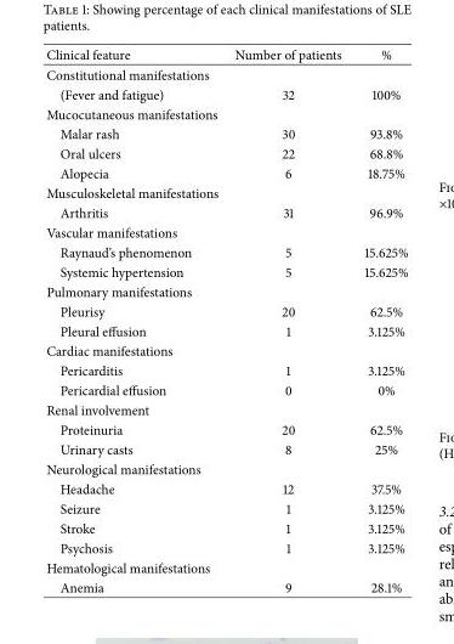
<table><thead><tr><td>Clinical feature</td><td>Number of patients</td><td>%</td></tr></thead><tbody><tr><td colspan="3">Constitutional manifestations</td></tr><tr><td>(Fever and fatigue)</td><td>32</td><td>100%</td></tr><tr><td colspan="3">Mucocutaneous manifestations</td></tr><tr><td>Malar rash</td><td>30</td><td>93.8%</td></tr><tr><td>Oral ulcers</td><td>22</td><td>68.8%</td></tr><tr><td>Alopecia</td><td>6</td><td>18.75%</td></tr><tr><td colspan="3">Musculoskeletal manifestations</td></tr><tr><td>Arthritis</td><td>31</td><td>96.9%</td></tr><tr><td colspan="3">Vascular manifestations</td></tr><tr><td>Raynaud’s phenomenon</td><td>5</td><td>15.625%</td></tr><tr><td>Systemic hypertension</td><td>5</td><td>15.625%</td></tr><tr><td colspan="3">Pulmonary manifestations</td></tr><tr><td>Pleurisy</td><td>20</td><td>62.5%</td></tr><tr><td>Pleural effusion</td><td>1</td><td>3.125%</td></tr><tr><td colspan="3">Cardiac manifestations</td></tr><tr><td>Pericarditis</td><td>1</td><td>3.125%</td></tr><tr><td>Pericardial effusion</td><td>0</td><td>0%</td></tr><tr><td colspan="3">Renal involvement</td></tr><tr><td>Proteinuria</td><td>20</td><td>62.5%</td></tr><tr><td>Urinary casts</td><td>8</td><td>25%</td></tr><tr><td colspan="3">Neurological manifestations</td></tr><tr><td>Headache</td><td>12</td><td>37.5%</td></tr><tr><td>Seizure</td><td>1</td><td>3.125%</td></tr><tr><td>Stroke</td><td>1</td><td>3.125%</td></tr><tr><td>Psychosis</td><td>1</td><td>3.125%</td></tr><tr><td colspan="3">Hematological manifestations</td></tr><tr><td>Anemia</td><td>9</td><td>28.1%</td></tr></tbody></table>